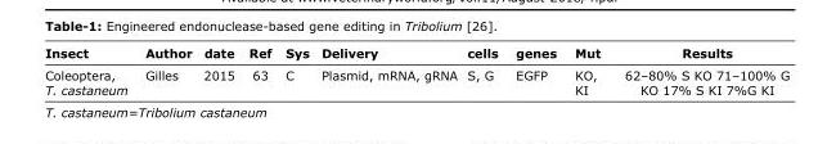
<table><thead><tr><td>Insect</td><td>Author</td><td>date</td><td>Ref</td><td>Sys</td><td>Delivery</td><td>cells</td><td>genes</td><td>Mut</td><td>Results</td></tr></thead><tbody><tr><td>Coleoptera, T. castaneum</td><td>Gilles</td><td>2015</td><td>63</td><td>C</td><td>Plasmid, mRNA, gRNA</td><td>S, G</td><td>EGFP</td><td>KO, KI</td><td>62–80% S KO 71–100% G KO 17% S KI 7%G KI</td></tr></tbody></table>